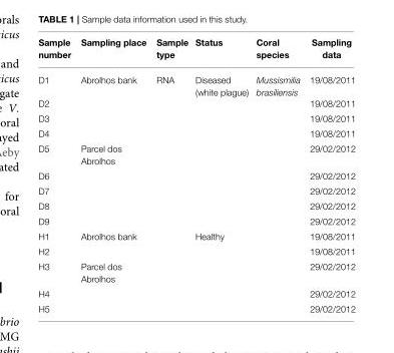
<table><thead><tr><td>Sample number</td><td>Sampling place</td><td>Sample type</td><td>Status</td><td>Coral species</td><td>Sampling data</td></tr></thead><tbody><tr><td>D1</td><td>Abrolhos bank</td><td>RNA</td><td>Diseased (white plague)</td><td>Mussismilia brasiliensis</td><td>19/08/2011</td></tr><tr><td>D2</td><td></td><td></td><td></td><td></td><td>19/08/2011</td></tr><tr><td>D3</td><td></td><td></td><td></td><td></td><td>19/08/2011</td></tr><tr><td>D4</td><td></td><td></td><td></td><td></td><td>19/08/2011</td></tr><tr><td>D5</td><td>Parcel dos Abrolhos</td><td></td><td></td><td></td><td>29/02/2012</td></tr><tr><td>D6</td><td></td><td></td><td></td><td></td><td>29/02/2012</td></tr><tr><td>D7</td><td></td><td></td><td></td><td></td><td>29/02/2012</td></tr><tr><td>D8</td><td></td><td></td><td></td><td></td><td>29/02/2012</td></tr><tr><td>D9</td><td></td><td></td><td></td><td></td><td>29/02/2012</td></tr><tr><td>H1</td><td>Abrolhos bank</td><td></td><td>Healthy</td><td></td><td>19/08/2011</td></tr><tr><td>H2</td><td></td><td></td><td></td><td></td><td>19/08/2011</td></tr><tr><td>H3</td><td>Parcel dos Abrolhos</td><td></td><td></td><td></td><td>29/02/2012</td></tr><tr><td>H4</td><td></td><td></td><td></td><td></td><td>29/02/2012</td></tr><tr><td>H5</td><td></td><td></td><td></td><td></td><td>29/02/2012</td></tr></tbody></table>